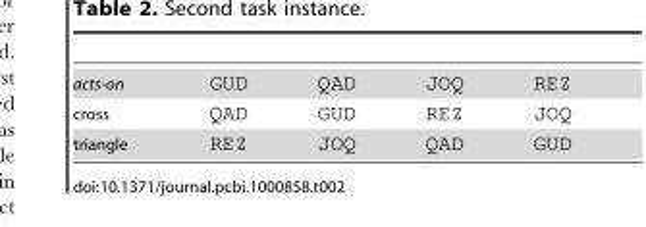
<table><tbody><tr><td>acts-on</td><td>GUD</td><td>QAD</td><td>JOQ</td><td>REZ</td></tr><tr><td>cross</td><td>QAD</td><td>GUD</td><td>REZ</td><td>JOQ</td></tr><tr><td>triangle</td><td>REZ</td><td>JOQ</td><td>QAD</td><td>GUD</td></tr></tbody></table>